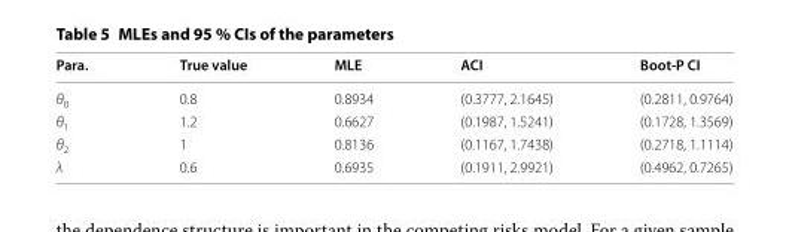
<table><thead><tr><td>Para.</td><td>True value</td><td>MLE</td><td>ACI</td><td>Boot-P CI</td></tr></thead><tbody><tr><td>θ<sub>0</sub></td><td>0.8</td><td>0.8934</td><td>(0.3777, 2.1645)</td><td>(0.2811, 0.9764)</td></tr><tr><td>θ<sub>1</sub></td><td>1.2</td><td>0.6627</td><td>(0.1987, 1.5241)</td><td>(0.1728, 1.3569)</td></tr><tr><td>θ<sub>2</sub></td><td>1</td><td>0.8136</td><td>(0.1167, 1.7438)</td><td>(0.2718, 1.1114)</td></tr><tr><td>λ</td><td>0.6</td><td>0.6935</td><td>(0.1911, 2.9921)</td><td>(0.4962, 0.7265)</td></tr></tbody></table>